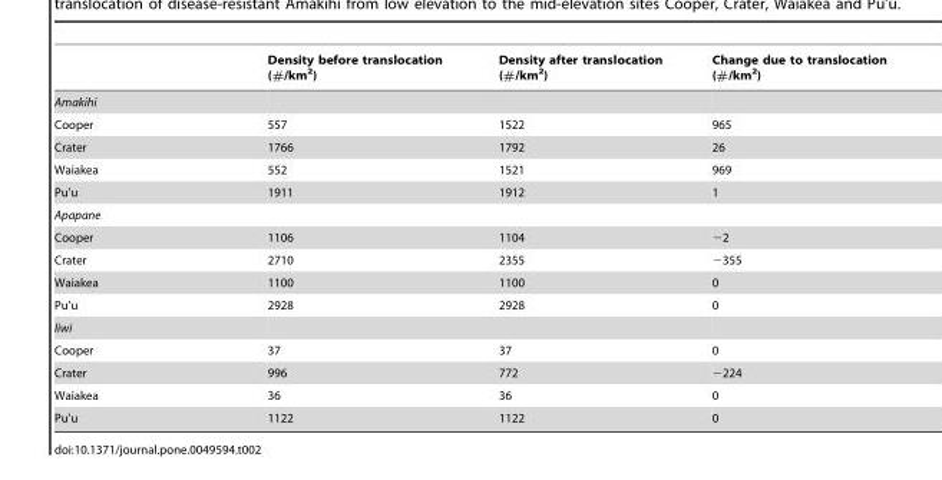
<table><thead><tr><td></td><td>Density before translocation (#/km<sup>2</sup>)</td><td>Density after translocation (#/km<sup>2</sup>)</td><td>Change due to translocation (#/km<sup>2</sup>)</td></tr></thead><tbody><tr><td colspan="4">Amakihi</td></tr><tr><td>Cooper</td><td>557</td><td>1522</td><td>965</td></tr><tr><td>Crater</td><td>1766</td><td>1792</td><td>26</td></tr><tr><td>Waiakea</td><td>552</td><td>1521</td><td>969</td></tr><tr><td>Pu’u</td><td>1911</td><td>1912</td><td>1</td></tr><tr><td colspan="4">Apapane</td></tr><tr><td>Cooper</td><td>1106</td><td>1104</td><td>−2</td></tr><tr><td>Crater</td><td>2710</td><td>2355</td><td>−355</td></tr><tr><td>Waiakea</td><td>1100</td><td>1100</td><td>0</td></tr><tr><td>Pu’u</td><td>2928</td><td>2928</td><td>0</td></tr><tr><td colspan="4">Iiwi</td></tr><tr><td>Cooper</td><td>37</td><td>37</td><td>0</td></tr><tr><td>Crater</td><td>996</td><td>772</td><td>−224</td></tr><tr><td>Waiakea</td><td>36</td><td>36</td><td>0</td></tr><tr><td>Pu’u</td><td>1122</td><td>1122</td><td>0</td></tr></tbody></table>